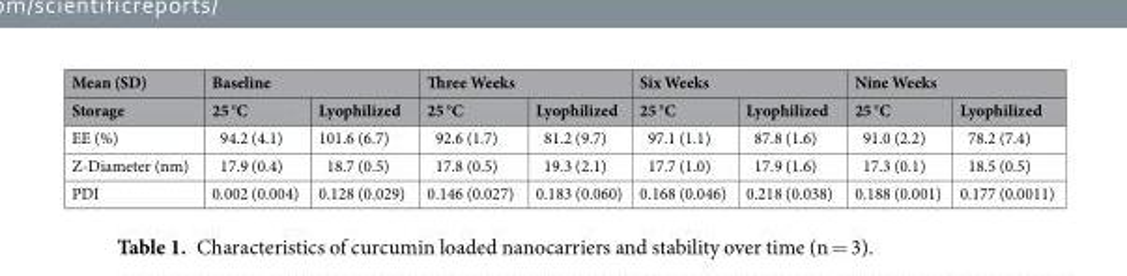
<table><thead><tr><td rowspan="2">Mean (SD) Storage</td><td colspan="2">Baseline</td><td colspan="2">Three Weeks</td><td colspan="2">Six Weeks</td><td colspan="2">Nine Weeks</td></tr><tr><td>25 °C</td><td>Lyophilized</td><td>25 °C</td><td>Lyophilized</td><td>25 °C</td><td>Lyophilized</td><td>25 °C</td><td>Lyophilized</td></tr></thead><tbody><tr><td>EE (%)</td><td>94.2 (4.1)</td><td>101.6 (6.7)</td><td>92.6 (1.7)</td><td>81.2 (9.7)</td><td>97.1 (1.1)</td><td>87.8 (1.6)</td><td>91.0 (2.2)</td><td>78.2 (7.4)</td></tr><tr><td>Z-Diameter (nm)</td><td>17.9 (0.4)</td><td>18.7 (0.5)</td><td>17.8 (0.5)</td><td>19.3 (2.1)</td><td>17.7 (1.0)</td><td>17.9 (1.6)</td><td>17.3 (0.1)</td><td>18.5 (0.5)</td></tr><tr><td>PDI</td><td>0.002 (0.004)</td><td>0.128 (0.029)</td><td>0.146 (0.027)</td><td>0.183 (0.060)</td><td>0.168 (0.046)</td><td>0.218 (0.038)</td><td>0.188 (0.001)</td><td>0.177 (0.0011)</td></tr></tbody></table>